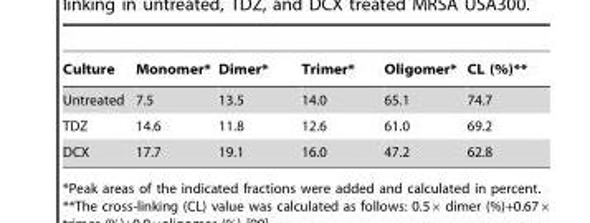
<table><thead><tr><td>Culture</td><td>Monomer*</td><td>Dimer*</td><td>Trimer*</td><td>Oligomer*</td><td>CL (%)**</td></tr></thead><tbody><tr><td>Untreated</td><td>7.5</td><td>13.5</td><td>14.0</td><td>65.1</td><td>74.7</td></tr><tr><td>TDZ</td><td>14.6</td><td>11.8</td><td>12.6</td><td>61.0</td><td>69.2</td></tr><tr><td>DCX</td><td>17.7</td><td>19.1</td><td>16.0</td><td>47.2</td><td>62.8</td></tr></tbody></table>